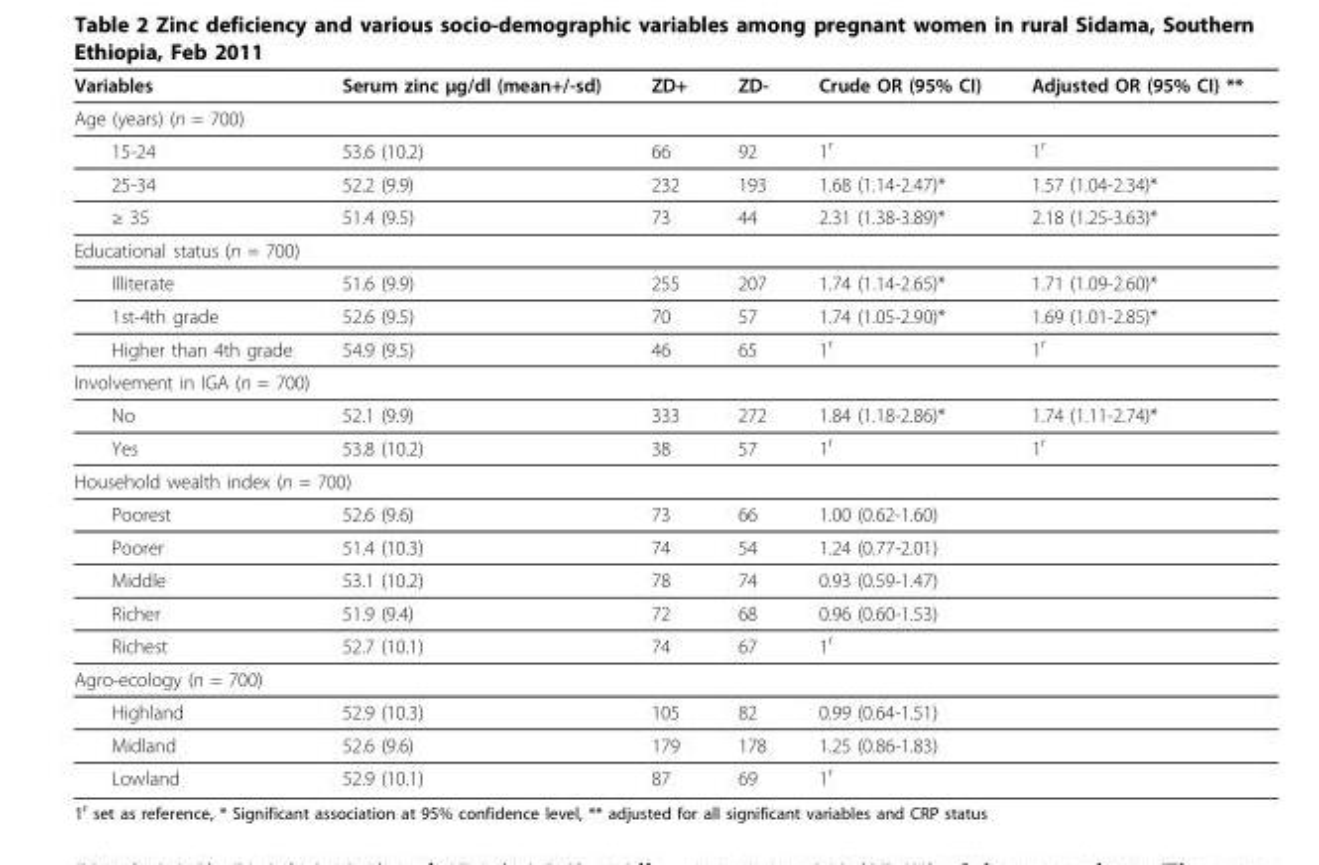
<table><thead><tr><td>Variables</td><td>Serum zinc μg/dl (mean+/-sd)</td><td>ZD+</td><td>ZD-</td><td>Crude OR (95% CI)</td><td>Adjusted OR (95% CI) **</td></tr></thead><tbody><tr><td colspan="6">Age (years) (n = 700)</td></tr><tr><td>15-24</td><td>53.6 (10.2)</td><td>66</td><td>92</td><td>1<sup>r</sup></td><td>1<sup>r</sup></td></tr><tr><td>25-34</td><td>52.2 (9.9)</td><td>232</td><td>193</td><td>1.68 (1.14-2.47)*</td><td>1.57 (1.04-2.34)*</td></tr><tr><td>≥ 35</td><td>51.4 (9.5)</td><td>73</td><td>44</td><td>2.31 (1.38-3.89)*</td><td>2.18 (1.25-3.63)*</td></tr><tr><td colspan="6">Educational status (n = 700)</td></tr><tr><td>Illiterate</td><td>51.6 (9.9)</td><td>255</td><td>207</td><td>1.74 (1.14-2.65)*</td><td>1.71 (1.09-2.60)*</td></tr><tr><td>1st-4th grade</td><td>52.6 (9.5)</td><td>70</td><td>57</td><td>1.74 (1.05-2.90)*</td><td>1.69 (1.01-2.85)*</td></tr><tr><td>Higher than 4th grade</td><td>54.9 (9.5)</td><td>46</td><td>65</td><td>1<sup>r</sup></td><td>1<sup>r</sup></td></tr><tr><td colspan="6">Involvement in IGA (n = 700)</td></tr><tr><td>No</td><td>52.1 (9.9)</td><td>333</td><td>272</td><td>1.84 (1.18-2.86)*</td><td>1.74 (1.11-2.74)*</td></tr><tr><td>Yes</td><td>53.8 (10.2)</td><td>38</td><td>57</td><td>1<sup>r</sup></td><td>1<sup>r</sup></td></tr><tr><td colspan="6">Household wealth index (n = 700)</td></tr><tr><td>Poorest</td><td>52.6 (9.6)</td><td>73</td><td>66</td><td>1.00 (0.62-1.60)</td><td></td></tr><tr><td>Poorer</td><td>51.4 (10.3)</td><td>74</td><td>54</td><td>1.24 (0.77-2.01)</td><td></td></tr><tr><td>Middle</td><td>53.1 (10.2)</td><td>78</td><td>74</td><td>0.93 (0.59-1.47)</td><td></td></tr><tr><td>Richer</td><td>51.9 (9.4)</td><td>72</td><td>68</td><td>0.96 (0.60-1.53)</td><td></td></tr><tr><td>Richest</td><td>52.7 (10.1)</td><td>74</td><td>67</td><td>1<sup>r</sup></td><td></td></tr><tr><td colspan="6">Agro-ecology (n = 700)</td></tr><tr><td>Highland</td><td>52.9 (10.3)</td><td>105</td><td>82</td><td>0.99 (0.64-1.51)</td><td></td></tr><tr><td>Midland</td><td>52.6 (9.6)</td><td>179</td><td>178</td><td>1.25 (0.86-1.83)</td><td></td></tr><tr><td>Lowland</td><td>52.9 (10.1)</td><td>87</td><td>69</td><td>1<sup>r</sup></td><td></td></tr></tbody></table>